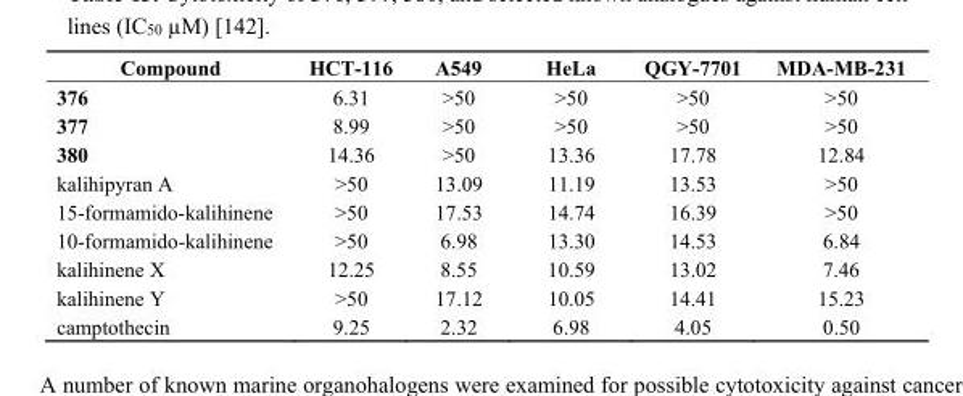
<table><thead><tr><td>Compound</td><td>HCT-116</td><td>A549</td><td>HeLa</td><td>QGY-7701</td><td>MDA-MB-231</td></tr></thead><tbody><tr><td>376</td><td>6.31</td><td>&gt;50</td><td>&gt;50</td><td>&gt;50</td><td>&gt;50</td></tr><tr><td>377</td><td>8.99</td><td>&gt;50</td><td>&gt;50</td><td>&gt;50</td><td>&gt;50</td></tr><tr><td>380</td><td>14.36</td><td>&gt;50</td><td>13.36</td><td>17.78</td><td>12.84</td></tr><tr><td>kalihipyran A</td><td>&gt;50</td><td>13.09</td><td>11.19</td><td>13.53</td><td>&gt;50</td></tr><tr><td>15-formamido-kalihinene</td><td>&gt;50</td><td>17.53</td><td>14.74</td><td>16.39</td><td>&gt;50</td></tr><tr><td>10-formamido-kalihinene</td><td>&gt;50</td><td>6.98</td><td>13.30</td><td>14.53</td><td>6.84</td></tr><tr><td>kalihinene X</td><td>12.25</td><td>8.55</td><td>10.59</td><td>13.02</td><td>7.46</td></tr><tr><td>kalihinene Y</td><td>&gt;50</td><td>17.12</td><td>10.05</td><td>14.41</td><td>15.23</td></tr><tr><td>camptothecin</td><td>9.25</td><td>2.32</td><td>6.98</td><td>4.05</td><td>0.50</td></tr></tbody></table>